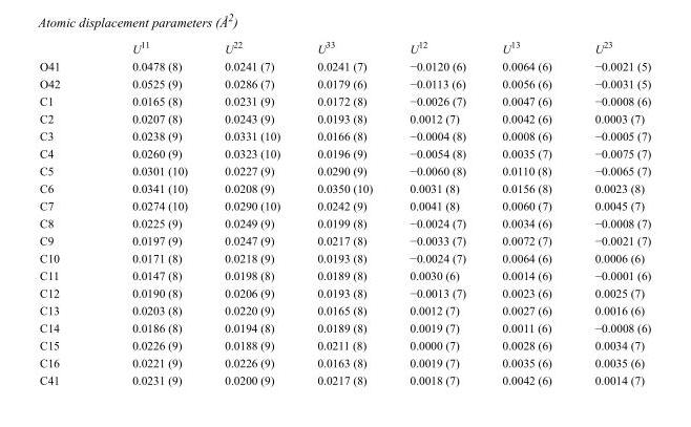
<table><thead><tr><td></td><td>U<sup>11</sup></td><td>U<sup>22</sup></td><td>U<sup>33</sup></td><td>U<sup>12</sup></td><td>U<sup>13</sup></td><td>U<sup>23</sup></td></tr></thead><tbody><tr><td>O41</td><td>0.0478 (8)</td><td>0.0241 (7)</td><td>0.0241 (7)</td><td>−0.0120 (6)</td><td>0.0064 (6)</td><td>−0.0021 (5)</td></tr><tr><td>O42</td><td>0.0525 (9)</td><td>0.0286 (7)</td><td>0.0179 (6)</td><td>−0.0113 (6)</td><td>0.0056 (6)</td><td>−0.0031 (5)</td></tr><tr><td>C1</td><td>0.0165 (8)</td><td>0.0231 (9)</td><td>0.0172 (8)</td><td>−0.0026 (7)</td><td>0.0047 (6)</td><td>−0.0008 (6)</td></tr><tr><td>C2</td><td>0.0207 (8)</td><td>0.0243 (9)</td><td>0.0193 (8)</td><td>0.0012 (7)</td><td>0.0042 (6)</td><td>0.0003 (7)</td></tr><tr><td>C3</td><td>0.0238 (9)</td><td>0.0331 (10)</td><td>0.0166 (8)</td><td>−0.0004 (8)</td><td>0.0008 (6)</td><td>−0.0005 (7)</td></tr><tr><td>C4</td><td>0.0260 (9)</td><td>0.0323 (10)</td><td>0.0196 (9)</td><td>−0.0054 (8)</td><td>0.0035 (7)</td><td>−0.0075 (7)</td></tr><tr><td>C5</td><td>0.0301 (10)</td><td>0.0227 (9)</td><td>0.0290 (9)</td><td>−0.0060 (8)</td><td>0.0110 (8)</td><td>−0.0065 (7)</td></tr><tr><td>C6</td><td>0.0341 (10)</td><td>0.0208 (9)</td><td>0.0350 (10)</td><td>0.0031 (8)</td><td>0.0156 (8)</td><td>0.0023 (8)</td></tr><tr><td>C7</td><td>0.0274 (10)</td><td>0.0290 (10)</td><td>0.0242 (9)</td><td>0.0041 (8)</td><td>0.0060 (7)</td><td>0.0045 (7)</td></tr><tr><td>C8</td><td>0.0225 (9)</td><td>0.0249 (9)</td><td>0.0199 (8)</td><td>−0.0024 (7)</td><td>0.0034 (6)</td><td>−0.0008 (7)</td></tr><tr><td>C9</td><td>0.0197 (9)</td><td>0.0247 (9)</td><td>0.0217 (8)</td><td>−0.0033 (7)</td><td>0.0072 (7)</td><td>−0.0021 (7)</td></tr><tr><td>C10</td><td>0.0171 (8)</td><td>0.0218 (9)</td><td>0.0193 (8)</td><td>−0.0024 (7)</td><td>0.0064 (6)</td><td>0.0006 (6)</td></tr><tr><td>C11</td><td>0.0147 (8)</td><td>0.0198 (8)</td><td>0.0189 (8)</td><td>0.0030 (6)</td><td>0.0014 (6)</td><td>−0.0001 (6)</td></tr><tr><td>C12</td><td>0.0190 (8)</td><td>0.0206 (9)</td><td>0.0193 (8)</td><td>−0.0013 (7)</td><td>0.0023 (6)</td><td>0.0025 (7)</td></tr><tr><td>C13</td><td>0.0203 (8)</td><td>0.0220 (9)</td><td>0.0165 (8)</td><td>0.0012 (7)</td><td>0.0027 (6)</td><td>0.0016 (6)</td></tr><tr><td>C14</td><td>0.0186 (8)</td><td>0.0194 (8)</td><td>0.0189 (8)</td><td>0.0019 (7)</td><td>0.0011 (6)</td><td>−0.0008 (6)</td></tr><tr><td>C15</td><td>0.0226 (9)</td><td>0.0188 (9)</td><td>0.0211 (8)</td><td>0.0000 (7)</td><td>0.0028 (6)</td><td>0.0034 (7)</td></tr><tr><td>C16</td><td>0.0221 (9)</td><td>0.0226 (9)</td><td>0.0163 (8)</td><td>0.0019 (7)</td><td>0.0035 (6)</td><td>0.0035 (6)</td></tr><tr><td>C41</td><td>0.0231 (9)</td><td>0.0200 (9)</td><td>0.0217 (8)</td><td>0.0018 (7)</td><td>0.0042 (6)</td><td>0.0014 (7)</td></tr></tbody></table>